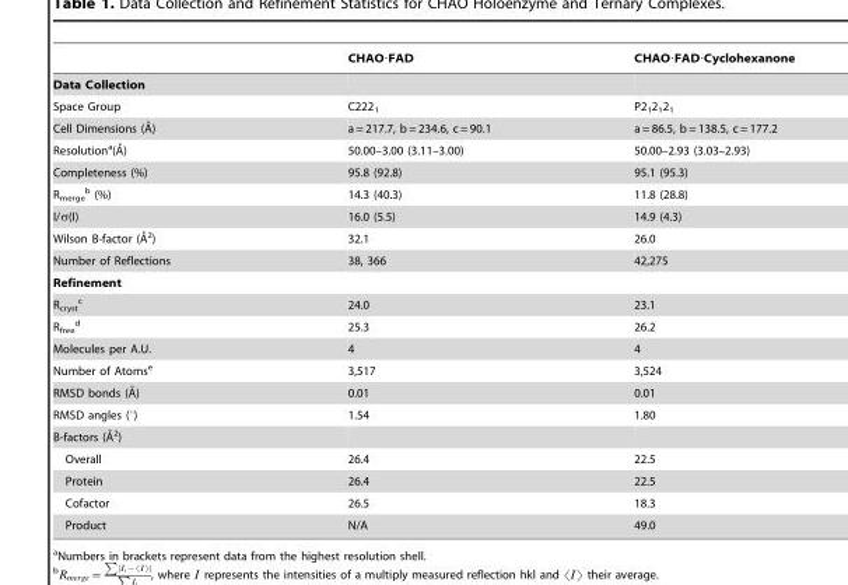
<table><thead><tr><td></td><td>CHAO·FAD</td><td>CHAO·FAD·Cyclohexanone</td></tr></thead><tbody><tr><td colspan="3">Data Collection</td></tr><tr><td>Space Group</td><td>C222<sub>1</sub></td><td>P2<sub>1</sub>2<sub>1</sub>2<sub>1</sub></td></tr><tr><td>Cell Dimensions (A˚)</td><td>a = 217.7, b = 234.6, c = 90.1</td><td>a = 86.5, b = 138.5, c = 177.2</td></tr><tr><td>Resolutiona(A˚)</td><td>50.00–3.00 (3.11–3.00)</td><td>50.00–2.93 (3.03–2.93)</td></tr><tr><td>Completeness (%)</td><td>95.8 (92.8)</td><td>95.1 (95.3)</td></tr><tr><td>R<sub>merge</sub> <sup>b</sup> (%)</td><td>14.3 (40.3)</td><td>11.8 (28.8)</td></tr><tr><td>I/σ(I)</td><td>16.0 (5.5)</td><td>14.9 (4.3)</td></tr><tr><td>Wilson B-factor (A˚2)</td><td>32.1</td><td>26.0</td></tr><tr><td>Number of Reflections</td><td>38, 366</td><td>42,275</td></tr><tr><td colspan="3">Refinement</td></tr><tr><td>R<sub>cryst</sub> <sup>c</sup></td><td>24.0</td><td>23.1</td></tr><tr><td>R<sub>free</sub> <sup>d</sup></td><td>25.3</td><td>26.2</td></tr><tr><td>Molecules per A.U.</td><td>4</td><td>4</td></tr><tr><td>Number of Atoms<sup>e</sup></td><td>3,517</td><td>3,524</td></tr><tr><td>RMSD bonds (A˚)</td><td>0.01</td><td>0.01</td></tr><tr><td>RMSD angles (°)</td><td>1.54</td><td>1.80</td></tr><tr><td colspan="3">B-factors (A˚ 2)</td></tr><tr><td>Overall</td><td>26.4</td><td>22.5</td></tr><tr><td>Protein</td><td>26.4</td><td>22.5</td></tr><tr><td>Cofactor</td><td>26.5</td><td>18.3</td></tr><tr><td>Product</td><td>N/A</td><td>49.0</td></tr></tbody></table>